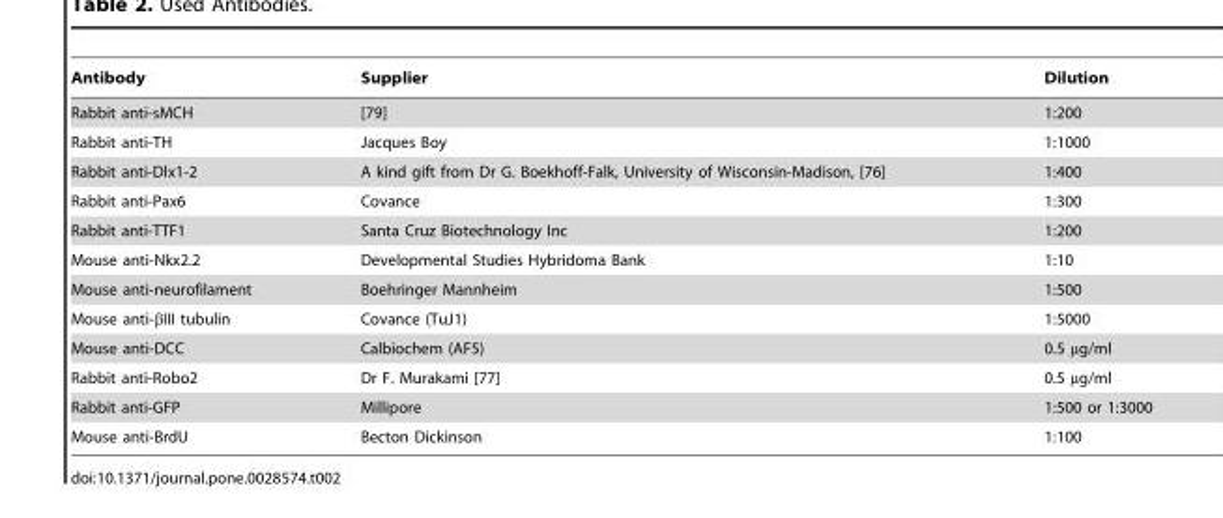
<table><thead><tr><td>Antibody</td><td>Supplier</td><td>Dilution</td></tr></thead><tbody><tr><td>Rabbit anti-sMCH</td><td>[79]</td><td>1:200</td></tr><tr><td>Rabbit anti-TH</td><td>Jacques Boy</td><td>1:1000</td></tr><tr><td>Rabbit anti-Dlx1-2</td><td>A kind gift from Dr G. Boekhoff-Falk, University of Wisconsin-Madison, [76]</td><td>1:400</td></tr><tr><td>Rabbit anti-Pax6</td><td>Covance</td><td>1:300</td></tr><tr><td>Rabbit anti-TTF1</td><td>Santa Cruz Biotechnology Inc</td><td>1:200</td></tr><tr><td>Mouse anti-Nkx2.2</td><td>Developmental Studies Hybridoma Bank</td><td>1:10</td></tr><tr><td>Mouse anti-neurofilament</td><td>Boehringer Mannheim</td><td>1:500</td></tr><tr><td>Mouse anti-βIII tubulin</td><td>Covance (TuJ1)</td><td>1:5000</td></tr><tr><td>Mouse anti-DCC</td><td>Calbiochem (AF5)</td><td>0.5 µg/ml</td></tr><tr><td>Rabbit anti-Robo2</td><td>Dr F. Murakami [77]</td><td>0.5 µg/ml</td></tr><tr><td>Rabbit anti-GFP</td><td>Millipore</td><td>1:500 or 1:3000</td></tr><tr><td>Mouse anti-BrdU</td><td>Becton Dickinson</td><td>1:100</td></tr></tbody></table>